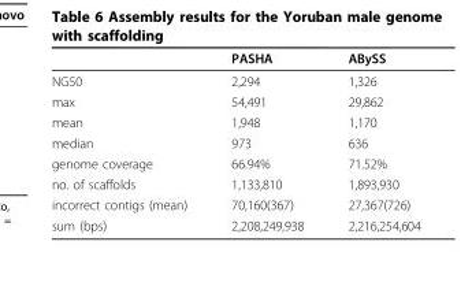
<table><thead><tr><td></td><td>PASHA</td><td>ABySS</td></tr></thead><tbody><tr><td>NG50</td><td>2,294</td><td>1,326</td></tr><tr><td>max</td><td>54,491</td><td>29,862</td></tr><tr><td>mean</td><td>1,948</td><td>1,170</td></tr><tr><td>median</td><td>973</td><td>636</td></tr><tr><td>genome coverage</td><td>66.94%</td><td>71.52%</td></tr><tr><td>no. of scaffolds</td><td>1,133,810</td><td>1,893,930</td></tr><tr><td>incorrect contigs (mean)</td><td>70,160(367)</td><td>27,367(726)</td></tr><tr><td>sum (bps)</td><td>2,208,249,938</td><td>2,216,254,604</td></tr></tbody></table>